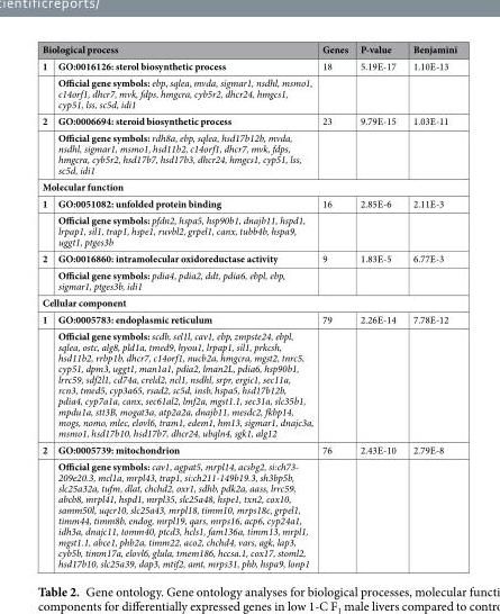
<table><thead><tr><td colspan="2">Biological process</td><td rowspan="2">Genes 18</td><td rowspan="2">P-value 5.19E-17</td><td rowspan="2">Benjamini 1.10E-13</td></tr><tr><td>1</td><td>GO:0016126: sterol biosynthetic process</td></tr></thead><tbody><tr><td></td><td>Official gene symbols: ebp, sqlea, mvda, sigmar1, nsdhl, msmo1, c14orf1, dhcr7, mvk, fdps, hmgcra, cyb5r2, dhcr24, hmgcs1, cyp51, lss, sc5d, idi1</td><td></td><td></td><td></td></tr><tr><td rowspan="2">2</td><td>GO:0006694: steroid biosynthetic process</td><td>23</td><td>9.79E-15</td><td>1.03E-11</td></tr><tr><td>Official gene symbols: rdh8a, ebp, sqlea, hsd17b12b, mvda, nsdhl, sigmar1, msmo1, hsd11b2, c14orf1, dhcr7, mvk, fdps, hmgcra, cyb5r2, hsd17b7, hsd17b3, dhcr24, hmgcs1, cyp51, lss, sc5d, idi1</td><td></td><td></td><td></td></tr><tr><td colspan="5">Molecular function</td></tr><tr><td rowspan="2">1</td><td>GO:0051082: unfolded protein binding</td><td>16</td><td>2.85E-6</td><td>2.11E-3</td></tr><tr><td>Official gene symbols: pfdn2, hspa5, hsp90b1, dnajb11, hspd1, lrpap1, sil1, trap1, hspe1, ruvbl2, grpel1, canx, tubb4b, hspa9, uggt1, ptges3b</td><td></td><td></td><td></td></tr><tr><td rowspan="2">2</td><td>GO:0016860: intramolecular oxidoreductase activity</td><td>9</td><td>1.83E-5</td><td>6.77E-3</td></tr><tr><td>Official gene symbols: pdia4, pdia2, ddt, pdia6, ebpl, ebp, sigmar1, ptges3b, idi1</td><td></td><td></td><td></td></tr><tr><td colspan="5">Cellular component</td></tr><tr><td rowspan="2">1</td><td>GO:0005783: endoplasmic reticulum</td><td>79</td><td>2.26E-14</td><td>7.78E-12</td></tr><tr><td>Official gene symbols: scdb, sel1l, cav1, ebp, zmpste24, ebpl, sqlea, ostc, alg8, pld1a, tmed9, hyou1, lrpap1, sil1, prkcsh, hsd11b2, rrbp1b, dhcr7, c14orf1, nucb2a, hmgcra, mgst2, tnrc5, cyp51, dpm3, uggt1, man1a1, pdia2, lman2L, pdia6, hsp90b1, lrrc59, sdf2l1, cd74a, creld2, ncl1, nsdhl, srpr, ergic1, sec11a, rcn3, tmed5, cyp3a65, rsad2, sc5d, insb, hspa5, hsd17b12b, pdia4, cyp7a1a, canx, sec61al2, lmf2a, mgst1.1, sec31a, slc35b1, mpdu1a, stt3B, mogat3a, atp2a2a, dnajb11, mesdc2, fkbp14, mogs, nomo, mlec, elovl6, tram1, edem1, hm13, sigmar1, dnajc3a, msmo1, hsd17b10, hsd17b7, dhcr24, ubqln4, sgk1, alg12</td><td></td><td></td><td></td></tr><tr><td rowspan="2">2</td><td>GO:0005739: mitochondrion</td><td>76</td><td>2.43E-10</td><td>2.79E-8</td></tr><tr><td>Official gene symbols: cav1, agpat5, mrpl14, acsbg2, si:ch73- 209e20.3, mcl1a, mrpl43, trap1, si:ch211-149b19.3, sh3bp5b, slc25a32a, tufm, dlat, chchd2, oxr1, sdhb, pdk2a, aass, lrrc59, abcb8, mrpl41, hspd1, mrpl35, slc25a48, hspe1, txn2, cox10, samm50l, uqcr10, slc25a43, mrpl18, timm10, mrps18c, grpel1, timm44, timm8b, endog, mrpl19, qars, mrps16, acp6, cyp24a1, idh3a, dnajc11, tomm40, ptcd3, hcls1, fam136a, timm13, mrpl1, mgst1.1, abce1, phb2a, timm22, aco2, chchd4, vars, agk, lap3, cyb5b, timm17a, elovl6, glula, tmem186, hccsa.1, cox17, stoml2, hsd17b10, slc25a39, dap3, mtif2, amt, mrps31, phb, hspa9, lonp1</td><td></td><td></td><td></td></tr></tbody></table>